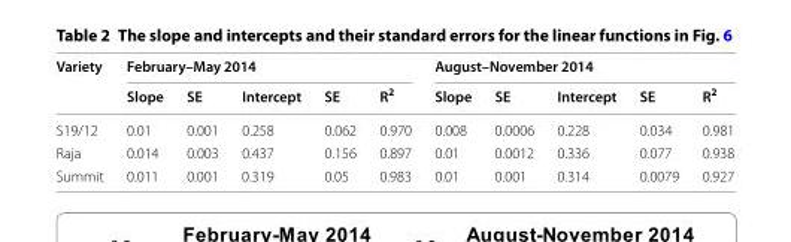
<table><thead><tr><td rowspan="2">Variety</td><td colspan="5">February–May 2014</td><td colspan="5">August–November 2014</td></tr><tr><td>Slope</td><td>SE</td><td>Intercept</td><td>SE</td><td>R<sup>2</sup></td><td>Slope</td><td>SE</td><td>Intercept</td><td>SE</td><td>R<sup>2</sup></td></tr></thead><tbody><tr><td>S19/12</td><td>0.01</td><td>0.001</td><td>0.258</td><td>0.062</td><td>0.970</td><td>0.008</td><td>0.0006</td><td>0.228</td><td>0.034</td><td>0.981</td></tr><tr><td>Raja</td><td>0.014</td><td>0.003</td><td>0.437</td><td>0.156</td><td>0.897</td><td>0.01</td><td>0.0012</td><td>0.336</td><td>0.077</td><td>0.938</td></tr><tr><td>Summit</td><td>0.011</td><td>0.001</td><td>0.319</td><td>0.05</td><td>0.983</td><td>0.01</td><td>0.001</td><td>0.314</td><td>0.0079</td><td>0.927</td></tr></tbody></table>